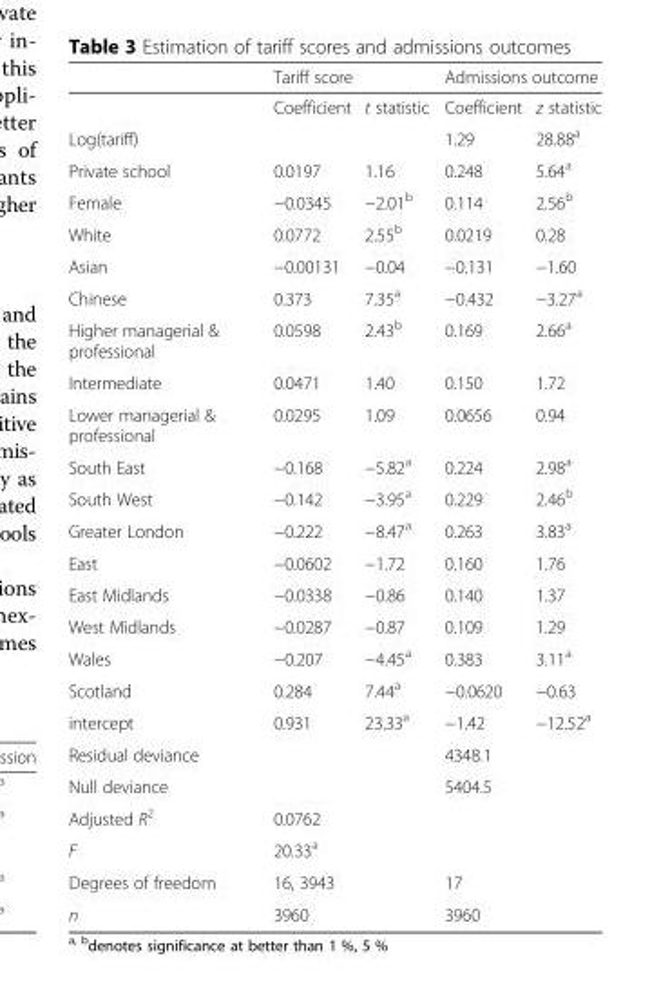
<table><thead><tr><td rowspan="2"></td><td colspan="2">Tariff score</td><td colspan="2">Admissions outcome</td></tr><tr><td>Coefficient</td><td>t statistic</td><td>Coefficient</td><td>z statistic</td></tr></thead><tbody><tr><td>Log(tariff)</td><td></td><td></td><td>1.29</td><td>28.88<sup>a</sup></td></tr><tr><td>Private school</td><td>0.0197</td><td>1.16</td><td>0.248</td><td>5.64<sup>a</sup></td></tr><tr><td>Female</td><td>−0.0345</td><td>−2.01<sup>b</sup></td><td>0.114</td><td>2.56<sup>b</sup></td></tr><tr><td>White</td><td>0.0772</td><td>2.55<sup>b</sup></td><td>0.0219</td><td>0.28</td></tr><tr><td>Asian</td><td>−0.00131</td><td>−0.04</td><td>−0.131</td><td>−1.60</td></tr><tr><td>Chinese</td><td>0.373</td><td>7.35<sup>a</sup></td><td>−0.432</td><td>−3.27<sup>a</sup></td></tr><tr><td>Higher managerial &amp; professional</td><td>0.0598</td><td>2.43<sup>b</sup></td><td>0.169</td><td>2.66<sup>a</sup></td></tr><tr><td>Intermediate</td><td>0.0471</td><td>1.40</td><td>0.150</td><td>1.72</td></tr><tr><td>Lower managerial &amp; professional</td><td>0.0295</td><td>1.09</td><td>0.0656</td><td>0.94</td></tr><tr><td>South East</td><td>−0.168</td><td>−5.82<sup>a</sup></td><td>0.224</td><td>2.98<sup>a</sup></td></tr><tr><td>South West</td><td>−0.142</td><td>−3.95<sup>a</sup></td><td>0.229</td><td>2.46<sup>b</sup></td></tr><tr><td>Greater London</td><td>−0.222</td><td>−8.47<sup>a</sup></td><td>0.263</td><td>3.83<sup>a</sup></td></tr><tr><td>East</td><td>−0.0602</td><td>−1.72</td><td>0.160</td><td>1.76</td></tr><tr><td>East Midlands</td><td>−0.0338</td><td>−0.86</td><td>0.140</td><td>1.37</td></tr><tr><td>West Midlands</td><td>−0.0287</td><td>−0.87</td><td>0.109</td><td>1.29</td></tr><tr><td>Wales</td><td>−0.207</td><td>−4.45<sup>a</sup></td><td>0.383</td><td>3.11<sup>a</sup></td></tr><tr><td>Scotland</td><td>0.284</td><td>7.44<sup>a</sup></td><td>−0.0620</td><td>−0.63</td></tr><tr><td>intercept</td><td>0.931</td><td>23.33<sup>a</sup></td><td>−1.42</td><td>−12.52<sup>a</sup></td></tr><tr><td>Residual deviance</td><td></td><td></td><td>4348.1</td><td></td></tr><tr><td>Null deviance</td><td></td><td></td><td>5404.5</td><td></td></tr><tr><td>Adjusted R<sup>2</sup></td><td>0.0762</td><td></td><td></td><td></td></tr><tr><td>F</td><td>20.33<sup>a</sup></td><td></td><td></td><td></td></tr><tr><td>Degrees of freedom</td><td>16, 3943</td><td></td><td>17</td><td></td></tr><tr><td>n</td><td>3960</td><td></td><td>3960</td><td></td></tr></tbody></table>